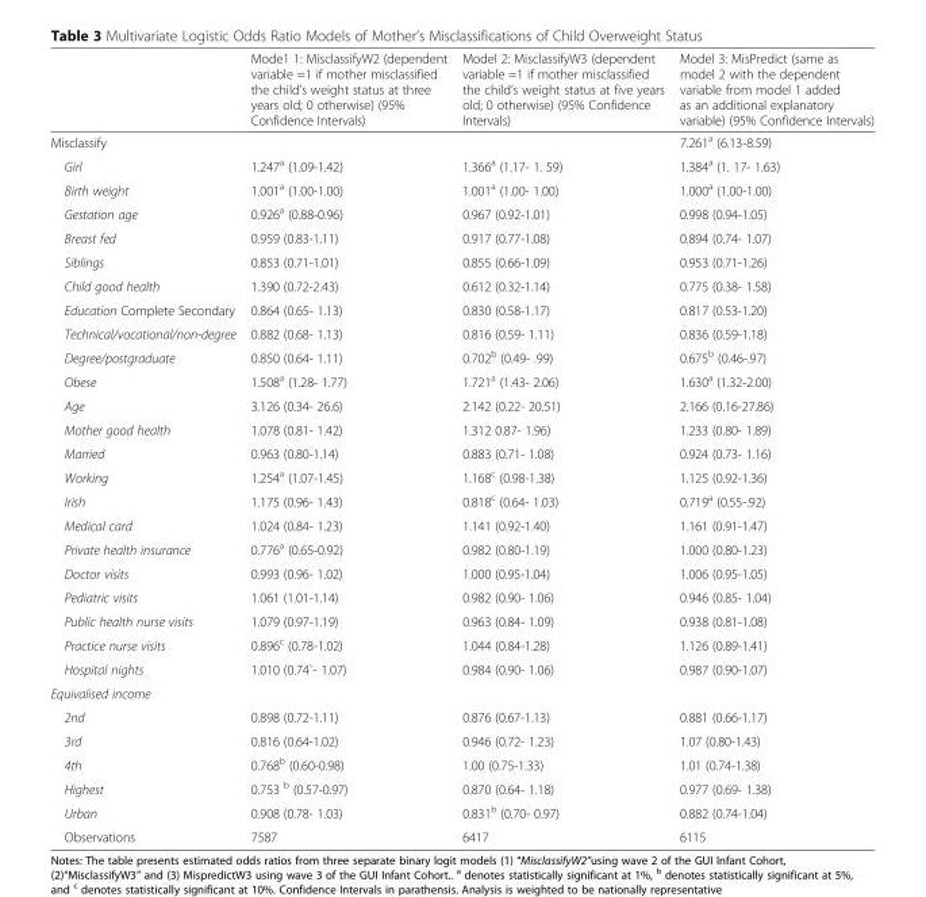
<table><thead><tr><td></td><td>Mode1 1: MisclassifyW2 (dependent variable =1 if mother misclassified the child’s weight status at three years old; 0 otherwise) (95% Confidence Intervals)</td><td>Model 2: MisclassifyW3 (dependent variable =1 if mother misclassified the child’s weight status at five years old; 0 otherwise) (95% Confidence Intervals)</td><td>Model 3: MisPredict (same as model 2 with the dependent variable from model 1 added as an additional explanatory variable) (95% Confidence Intervals)</td></tr></thead><tbody><tr><td>Misclassify</td><td></td><td></td><td>7.261<sup>a</sup> (6.13-8.59)</td></tr><tr><td>Girl</td><td>1.247<sup>a</sup> (1.09-1.42)</td><td>1.366<sup>a</sup> (1.17- 1. 59)</td><td>1.384<sup>a</sup> (1. 17- 1.63)</td></tr><tr><td>Birth weight</td><td>1.001<sup>a</sup> (1.00-1.00)</td><td>1.001<sup>a</sup> (1.00- 1.00)</td><td>1.000<sup>a</sup> (1.00-1.00)</td></tr><tr><td>Gestation age</td><td>0.926<sup>a</sup> (0.88-0.96)</td><td>0.967 (0.92-1.01)</td><td>0.998 (0.94-1.05)</td></tr><tr><td>Breast fed</td><td>0.959 (0.83-1.11)</td><td>0.917 (0.77-1.08)</td><td>0.894 (0.74- 1.07)</td></tr><tr><td>Siblings</td><td>0.853 (0.71-1.01)</td><td>0.855 (0.66-1.09)</td><td>0.953 (0.71-1.26)</td></tr><tr><td>Child good health</td><td>1.390 (0.72-2.43)</td><td>0.612 (0.32-1.14)</td><td>0.775 (0.38- 1.58)</td></tr><tr><td>Education Complete Secondary</td><td>0.864 (0.65- 1.13)</td><td>0.830 (0.58-1.17)</td><td>0.817 (0.53-1.20)</td></tr><tr><td>Technical/vocational/non-degree</td><td>0.882 (0.68- 1.13)</td><td>0.816 (0.59- 1.11)</td><td>0.836 (0.59-1.18)</td></tr><tr><td>Degree/postgraduate</td><td>0.850 (0.64- 1.11)</td><td>0.702<sup>b</sup> (0.49- .99)</td><td>0.675<sup>b</sup> (0.46-.97)</td></tr><tr><td>Obese</td><td>1.508<sup>a</sup> (1.28- 1.77)</td><td>1.721<sup>a</sup> (1.43- 2.06)</td><td>1.630<sup>a</sup> (1.32-2.00)</td></tr><tr><td>Age</td><td>3.126 (0.34- 26.6)</td><td>2.142 (0.22- 20.51)</td><td>2.166 (0.16-27.86)</td></tr><tr><td>Mother good health</td><td>1.078 (0.81- 1.42)</td><td>1.312 0.87- 1.96)</td><td>1.233 (0.80- 1.89)</td></tr><tr><td>Married</td><td>0.963 (0.80-1.14)</td><td>0.883 (0.71- 1.08)</td><td>0.924 (0.73- 1.16)</td></tr><tr><td>Working</td><td>1.254<sup>a</sup> (1.07-1.45)</td><td>1.168<sup>c</sup> (0.98-1.38)</td><td>1.125 (0.92-1.36)</td></tr><tr><td>Irish</td><td>1.175 (0.96- 1.43)</td><td>0.818<sup>c</sup> (0.64- 1.03)</td><td>0.719<sup>a</sup> (0.55-.92)</td></tr><tr><td>Medical card</td><td>1.024 (0.84- 1.23)</td><td>1.141 (0.92-1.40)</td><td>1.161 (0.91-1.47)</td></tr><tr><td>Private health insurance</td><td>0.776<sup>a</sup> (0.65-0.92)</td><td>0.982 (0.80-1.19)</td><td>1.000 (0.80-1.23)</td></tr><tr><td>Doctor visits</td><td>0.993 (0.96- 1.02)</td><td>1.000 (0.95-1.04)</td><td>1.006 (0.95-1.05)</td></tr><tr><td>Pediatric visits</td><td>1.061 (1.01-1.14)</td><td>0.982 (0.90- 1.06)</td><td>0.946 (0.85- 1.04)</td></tr><tr><td>Public health nurse visits</td><td>1.079 (0.97-1.19)</td><td>0.963 (0.84- 1.09)</td><td>0.938 (0.81-1.08)</td></tr><tr><td>Practice nurse visits</td><td>0.896<sup>c</sup> (0.78-1.02)</td><td>1.044 (0.84-1.28)</td><td>1.126 (0.89-1.41)</td></tr><tr><td>Hospital nights</td><td>1.010 (0.74`- 1.07)</td><td>0.984 (0.90- 1.06)</td><td>0.987 (0.90-1.07)</td></tr><tr><td colspan="4">Equivalised income</td></tr><tr><td>2nd</td><td>0.898 (0.72-1.11)</td><td>0.876 (0.67-1.13)</td><td>0.881 (0.66-1.17)</td></tr><tr><td>3rd</td><td>0.816 (0.64-1.02)</td><td>0.946 (0.72- 1.23)</td><td>1.07 (0.80-1.43)</td></tr><tr><td>4th</td><td>0.768<sup>b</sup> (0.60-0.98)</td><td>1.00 (0.75-1.33)</td><td>1.01 (0.74-1.38)</td></tr><tr><td>Highest</td><td>0.753 <sup>b</sup> (0.57-0.97)</td><td>0.870 (0.64- 1.18)</td><td>0.977 (0.69- 1.38)</td></tr><tr><td>Urban</td><td>0.908 (0.78- 1.03)</td><td>0.831<sup>b</sup> (0.70- 0.97)</td><td>0.882 (0.74-1.04)</td></tr><tr><td>Observations</td><td>7587</td><td>6417</td><td>6115</td></tr></tbody></table>